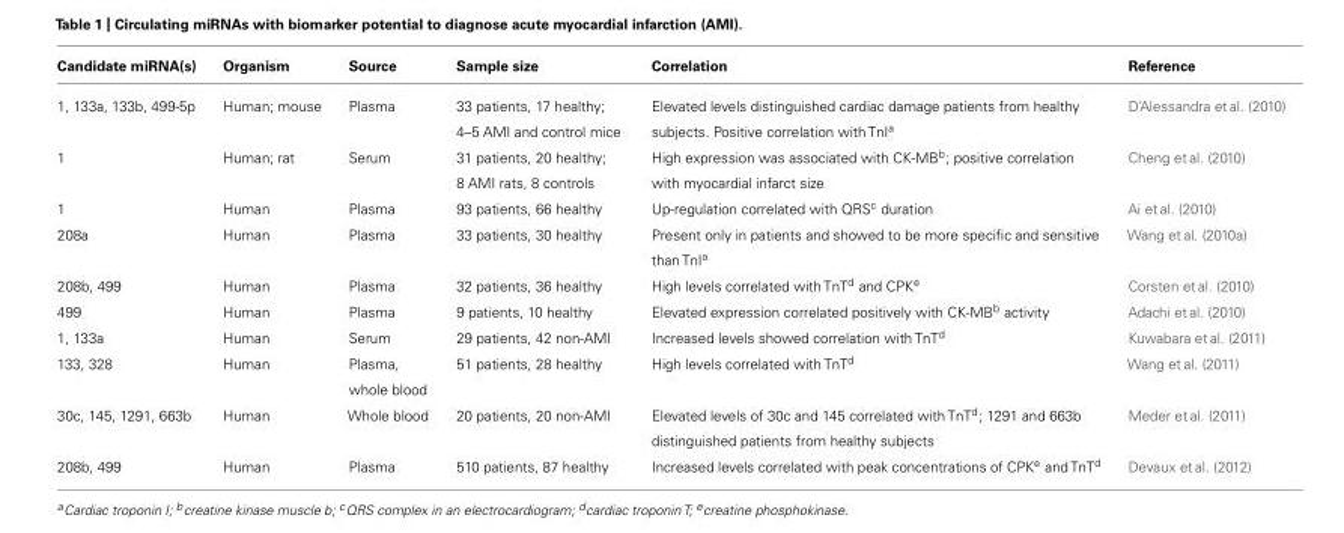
<table><thead><tr><td>Candidate miRNA(s)</td><td>Organism</td><td>Source</td><td>Sample size</td><td>Correlation</td><td>Reference</td></tr></thead><tbody><tr><td>1, 133a, 133b, 499-5p</td><td>Human; mouse</td><td>Plasma</td><td>33 patients, 17 healthy; 4–5 AMI and control mice</td><td>Elevated levels distinguished cardiac damage patients from healthy subjects. Positive correlation with TnI<sup>a</sup></td><td>D’Alessandra et al. (2010)</td></tr><tr><td>1</td><td>Human; rat</td><td>Serum</td><td>31 patients, 20 healthy; 8 AMI rats, 8 controls</td><td>High expression was associated with CK-MB<sup>b</sup>; positive correlation with myocardial infarct size</td><td>Cheng et al. (2010)</td></tr><tr><td>1</td><td>Human</td><td>Plasma</td><td>93 patients, 66 healthy</td><td>Up-regulation correlated with QRS<sup>c</sup> duration</td><td>Ai et al. (2010)</td></tr><tr><td>208a</td><td>Human</td><td>Plasma</td><td>33 patients, 30 healthy</td><td>Present only in patients and showed to be more specific and sensitive than TnI<sup>a</sup></td><td>Wang et al. (2010a)</td></tr><tr><td>208b, 499</td><td>Human</td><td>Plasma</td><td>32 patients, 36 healthy</td><td>High levels correlated with TnT<sup>d</sup> and CPK<sup>e</sup></td><td>Corsten et al. (2010)</td></tr><tr><td>499</td><td>Human</td><td>Plasma</td><td>9 patients, 10 healthy</td><td>Elevated expression correlated positively with CK-MB<sup>b</sup> activity</td><td>Adachi et al. (2010)</td></tr><tr><td>1, 133a</td><td>Human</td><td>Serum</td><td>29 patients, 42 non-AMI</td><td>Increased levels showed correlation with TnT<sup>d</sup></td><td>Kuwabara et al. (2011)</td></tr><tr><td>133, 328</td><td>Human</td><td>Plasma, whole blood</td><td>51 patients, 28 healthy</td><td>High levels correlated with TnT<sup>d</sup></td><td>Wang et al. (2011)</td></tr><tr><td>30c, 145, 1291, 663b</td><td>Human</td><td>Whole blood</td><td>20 patients, 20 non-AMI</td><td>Elevated levels of 30c and 145 correlated with TnT<sup>d</sup>; 1291 and 663b distinguished patients from healthy subjects</td><td>Meder et al. (2011)</td></tr><tr><td>208b, 499</td><td>Human</td><td>Plasma</td><td>510 patients, 87 healthy</td><td>Increased levels correlated with peak concentrations of CPK<sup>e</sup> andTnT<sup>d</sup></td><td>Devaux et al. (2012)</td></tr></tbody></table>